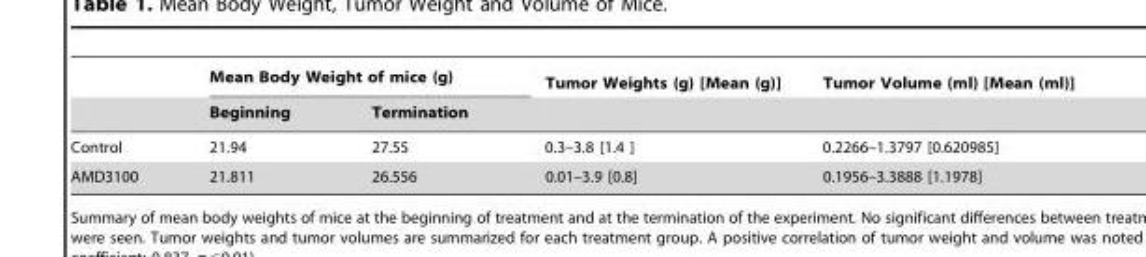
<table><thead><tr><td rowspan="2"></td><td colspan="2">Mean Body Weight of mice (g)</td><td rowspan="2">Tumor Weights (g) [Mean (g)]</td><td rowspan="2">Tumor Volume (ml) [Mean (ml)]</td></tr><tr><td>Beginning</td><td>Termination</td></tr></thead><tbody><tr><td>Control</td><td>21.94</td><td>27.55</td><td>0.3–3.8 [1.4 ]</td><td>0.2266–1.3797 [0.620985]</td></tr><tr><td>AMD3100</td><td>21.811</td><td>26.556</td><td>0.01–3.9 [0.8]</td><td>0.1956–3.3888 [1.1978]</td></tr></tbody></table>